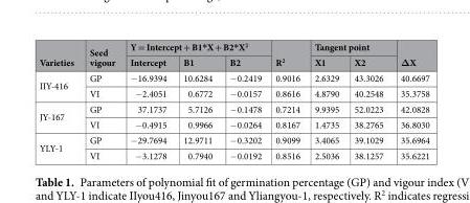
<table><thead><tr><td rowspan="2">Varieties</td><td rowspan="2">Seed vigour</td><td colspan="3">Y = Intercept + B1*X + B2*X<sup>2</sup></td><td rowspan="2">R<sup>2</sup></td><td colspan="2">Tangent point</td><td rowspan="2">ΔX</td></tr><tr><td>Intercept</td><td>B1</td><td>B2</td><td>X1</td><td>X2</td></tr></thead><tbody><tr><td rowspan="2">IIY-416</td><td>GP</td><td>−16.9394</td><td>10.6284</td><td>−0.2419</td><td>0.9016</td><td>2.6329</td><td>43.3026</td><td>40.6697</td></tr><tr><td>VI</td><td>−2.4051</td><td>0.6772</td><td>−0.0157</td><td>0.8616</td><td>4.8790</td><td>40.2548</td><td>35.3758</td></tr><tr><td rowspan="2">JY-167</td><td>GP</td><td>37.1737</td><td>5.7126</td><td>−0.1478</td><td>0.7214</td><td>9.9395</td><td>52.0223</td><td>42.0828</td></tr><tr><td>VI</td><td>−0.4915</td><td>0.9966</td><td>−0.0264</td><td>0.8167</td><td>1.4735</td><td>38.2765</td><td>36.8030</td></tr><tr><td rowspan="2">YLY-1</td><td>GP</td><td>−29.7694</td><td>12.9711</td><td>−0.3202</td><td>0.9099</td><td>3.4065</td><td>39.1029</td><td>35.6964</td></tr><tr><td>VI</td><td>−3.1278</td><td>0.7940</td><td>−0.0192</td><td>0.8516</td><td>2.5036</td><td>38.1257</td><td>35.6221</td></tr></tbody></table>